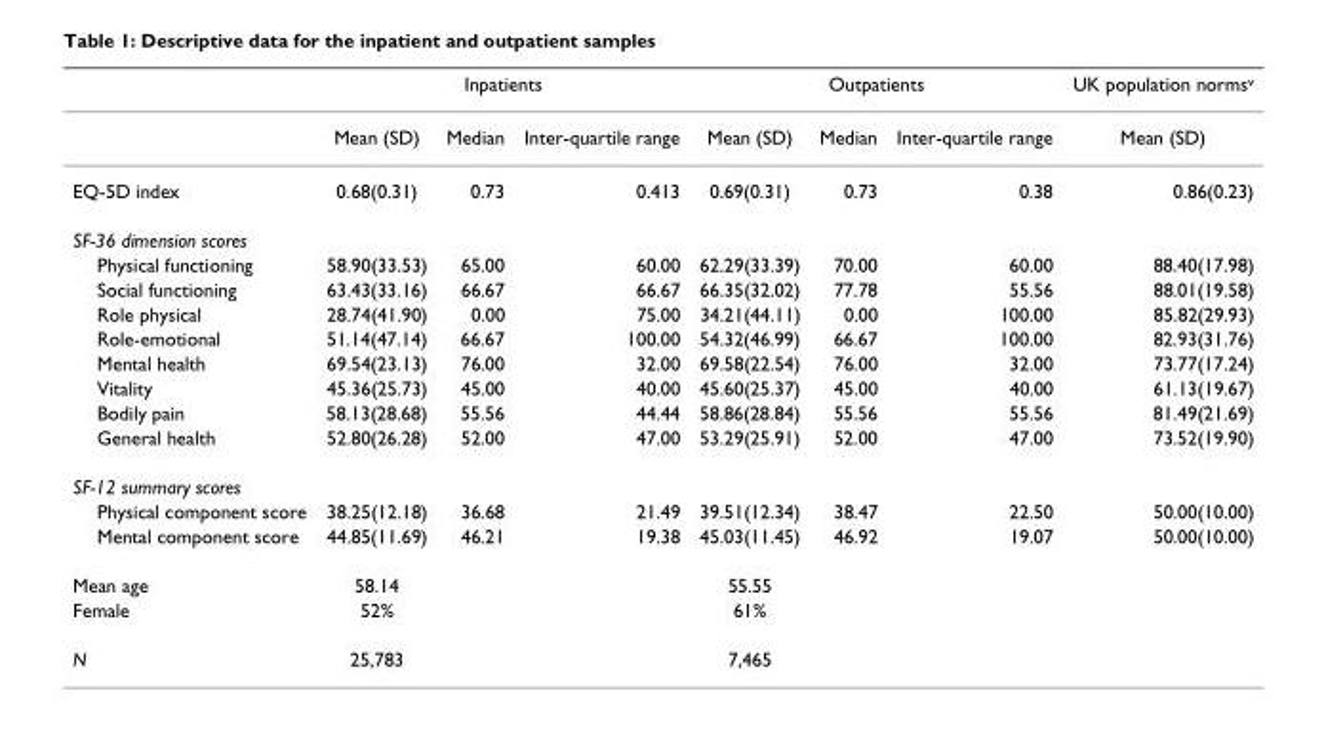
<table><thead><tr><td rowspan="2"></td><td colspan="3">Inpatients</td><td colspan="3">Outpatients</td><td rowspan="2">UK population norms<sup>v</sup> Mean (SD)</td></tr><tr><td>Mean (SD)</td><td>Median</td><td>Inter-quartile range</td><td>Mean (SD)</td><td>Median</td><td>Inter-quartile range</td></tr></thead><tbody><tr><td>EQ-5D index</td><td>0.68(0.31)</td><td>0.73</td><td>0.413</td><td>0.69(0.31)</td><td>0.73</td><td>0.38</td><td>0.86(0.23)</td></tr><tr><td colspan="8">SF-36 dimension scores</td></tr><tr><td>Physical functioning</td><td>58.90(33.53)</td><td>65.00</td><td>60.00</td><td>62.29(33.39)</td><td>70.00</td><td>60.00</td><td>88.40(17.98)</td></tr><tr><td>Social functioning</td><td>63.43(33.16)</td><td>66.67</td><td>66.67</td><td>66.35(32.02)</td><td>77.78</td><td>55.56</td><td>88.01(19.58)</td></tr><tr><td>Role physical</td><td>28.74(41.90)</td><td>0.00</td><td>75.00</td><td>34.21(44.11)</td><td>0.00</td><td>100.00</td><td>85.82(29.93)</td></tr><tr><td>Role-emotional</td><td>51.14(47.14)</td><td>66.67</td><td>100.00</td><td>54.32(46.99)</td><td>66.67</td><td>100.00</td><td>82.93(31.76)</td></tr><tr><td>Mental health</td><td>69.54(23.13)</td><td>76.00</td><td>32.00</td><td>69.58(22.54)</td><td>76.00</td><td>32.00</td><td>73.77(17.24)</td></tr><tr><td>Vitality</td><td>45.36(25.73)</td><td>45.00</td><td>40.00</td><td>45.60(25.37)</td><td>45.00</td><td>40.00</td><td>61.13(19.67)</td></tr><tr><td>Bodily pain</td><td>58.13(28.68)</td><td>55.56</td><td>44.44</td><td>58.86(28.84)</td><td>55.56</td><td>55.56</td><td>81.49(21.69)</td></tr><tr><td>General health</td><td>52.80(26.28)</td><td>52.00</td><td>47.00</td><td>53.29(25.91)</td><td>52.00</td><td>47.00</td><td>73.52(19.90)</td></tr><tr><td colspan="8">SF-12 summary scores</td></tr><tr><td>Physical component score</td><td>38.25(12.18)</td><td>36.68</td><td>21.49</td><td>39.51(12.34)</td><td>38.47</td><td>22.50</td><td>50.00(10.00)</td></tr><tr><td>Mental component score</td><td>44.85(11.69)</td><td>46.21</td><td>19.38</td><td>45.03(11.45)</td><td>46.92</td><td>19.07</td><td>50.00(10.00)</td></tr><tr><td>Mean age</td><td>58.14</td><td></td><td></td><td>55.55</td><td></td><td></td><td></td></tr><tr><td>Female</td><td>52%</td><td></td><td></td><td>61%</td><td></td><td></td><td></td></tr><tr><td>N</td><td>25,783</td><td></td><td></td><td>7,465</td><td></td><td></td><td></td></tr></tbody></table>